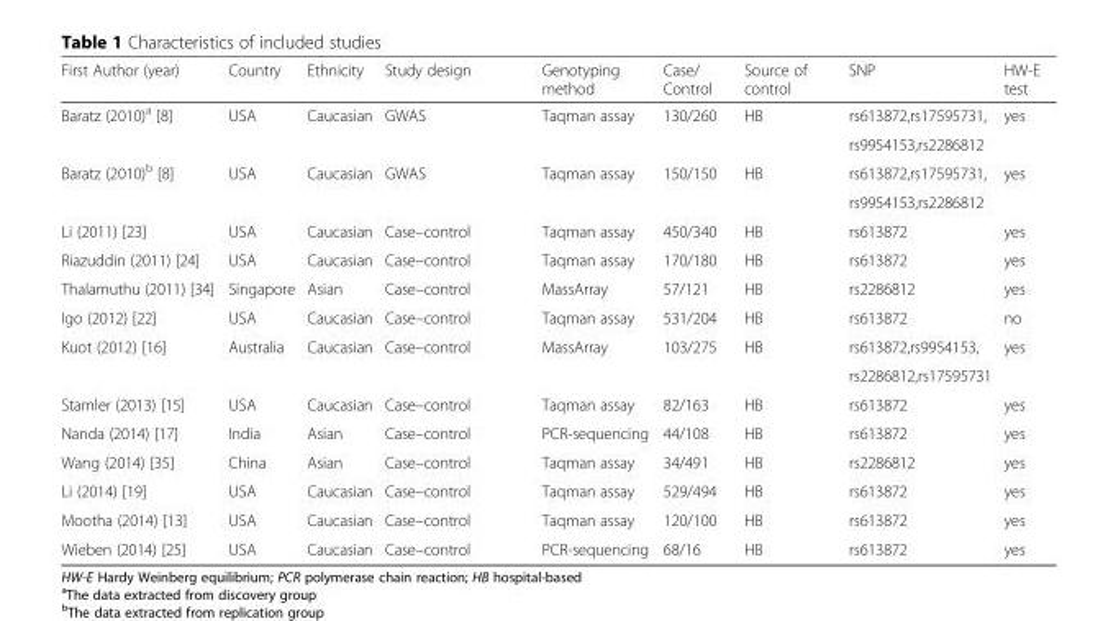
<table><thead><tr><td>First Author (year)</td><td>Country</td><td>Ethnicity</td><td>Study design</td><td>Genotyping method</td><td>Case/ Control</td><td>Source of control</td><td>SNP</td><td>HW-E test</td></tr></thead><tbody><tr><td rowspan="2">Baratz (2010)<sup>a</sup> [8]</td><td rowspan="2">USA</td><td rowspan="2">Caucasian</td><td rowspan="2">GWAS</td><td rowspan="2">Taqman assay</td><td rowspan="2">130/260</td><td rowspan="2">HB</td><td>rs613872,rs17595731,</td><td rowspan="2">yes</td></tr><tr><td>rs9954153,rs2286812</td></tr><tr><td rowspan="2">Baratz (2010)<sup>b</sup> [8]</td><td rowspan="2">USA</td><td rowspan="2">Caucasian</td><td rowspan="2">GWAS</td><td rowspan="2">Taqman assay</td><td rowspan="2">150/150</td><td rowspan="2">HB</td><td>rs613872,rs17595731,</td><td rowspan="2">yes</td></tr><tr><td>rs9954153,rs2286812</td></tr><tr><td>Li (2011) [23]</td><td>USA</td><td>Caucasian</td><td>Case–control</td><td>Taqman assay</td><td>450/340</td><td>HB</td><td>rs613872</td><td>yes</td></tr><tr><td>Riazuddin (2011) [24]</td><td>USA</td><td>Caucasian</td><td>Case–control</td><td>Taqman assay</td><td>170/180</td><td>HB</td><td>rs613872</td><td>yes</td></tr><tr><td>Thalamuthu (2011) [34]</td><td>Singapore</td><td>Asian</td><td>Case–control</td><td>MassArray</td><td>57/121</td><td>HB</td><td>rs2286812</td><td>yes</td></tr><tr><td>Igo (2012) [22]</td><td>USA</td><td>Caucasian</td><td>Case–control</td><td>Taqman assay</td><td>531/204</td><td>HB</td><td>rs613872</td><td>no</td></tr><tr><td rowspan="2">Kuot (2012) [16]</td><td rowspan="2">Australia</td><td rowspan="2">Caucasian</td><td rowspan="2">Case–control</td><td rowspan="2">MassArray</td><td rowspan="2">103/275</td><td rowspan="2">HB</td><td>rs613872,rs9954153,</td><td rowspan="2">yes</td></tr><tr><td>rs2286812,rs17595731</td></tr><tr><td>Stamler (2013) [15]</td><td>USA</td><td>Caucasian</td><td>Case–control</td><td>Taqman assay</td><td>82/163</td><td>HB</td><td>rs613872</td><td>yes</td></tr><tr><td>Nanda (2014) [17]</td><td>India</td><td>Asian</td><td>Case–control</td><td>PCR-sequencing</td><td>44/108</td><td>HB</td><td>rs613872</td><td>yes</td></tr><tr><td>Wang (2014) [35]</td><td>China</td><td>Asian</td><td>Case–control</td><td>Taqman assay</td><td>34/491</td><td>HB</td><td>rs2286812</td><td>yes</td></tr><tr><td>Li (2014) [19]</td><td>USA</td><td>Caucasian</td><td>Case–control</td><td>Taqman assay</td><td>529/494</td><td>HB</td><td>rs613872</td><td>yes</td></tr><tr><td>Mootha (2014) [13]</td><td>USA</td><td>Caucasian</td><td>Case–control</td><td>Taqman assay</td><td>120/100</td><td>HB</td><td>rs613872</td><td>yes</td></tr><tr><td>Wieben (2014) [25]</td><td>USA</td><td>Caucasian</td><td>Case–control</td><td>PCR-sequencing</td><td>68/16</td><td>HB</td><td>rs613872</td><td>yes</td></tr></tbody></table>